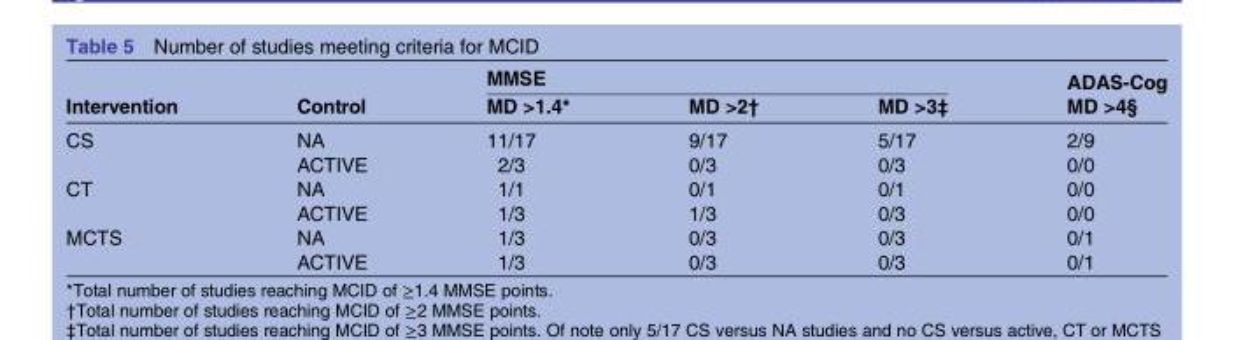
<table><thead><tr><td rowspan="2">Intervention</td><td rowspan="2">Control</td><td colspan="3">MMSE</td><td rowspan="2">ADAS-Cog MD &gt;4§</td></tr><tr><td>MD &gt;1.4*</td><td>MD &gt;2†</td><td>MD &gt;3‡</td></tr></thead><tbody><tr><td rowspan="2">CS</td><td>NA</td><td>11/17</td><td>9/17</td><td>5/17</td><td>2/9</td></tr><tr><td>ACTIVE</td><td>2/3</td><td>0/3</td><td>0/3</td><td>0/0</td></tr><tr><td rowspan="2">CT</td><td>NA</td><td>1/1</td><td>0/1</td><td>0/1</td><td>0/0</td></tr><tr><td>ACTIVE</td><td>1/3</td><td>1/3</td><td>0/3</td><td>0/0</td></tr><tr><td rowspan="2">MCTS</td><td>NA</td><td>1/3</td><td>0/3</td><td>0/3</td><td>0/1</td></tr><tr><td>ACTIVE</td><td>1/3</td><td>0/3</td><td>0/3</td><td>0/1</td></tr></tbody></table>